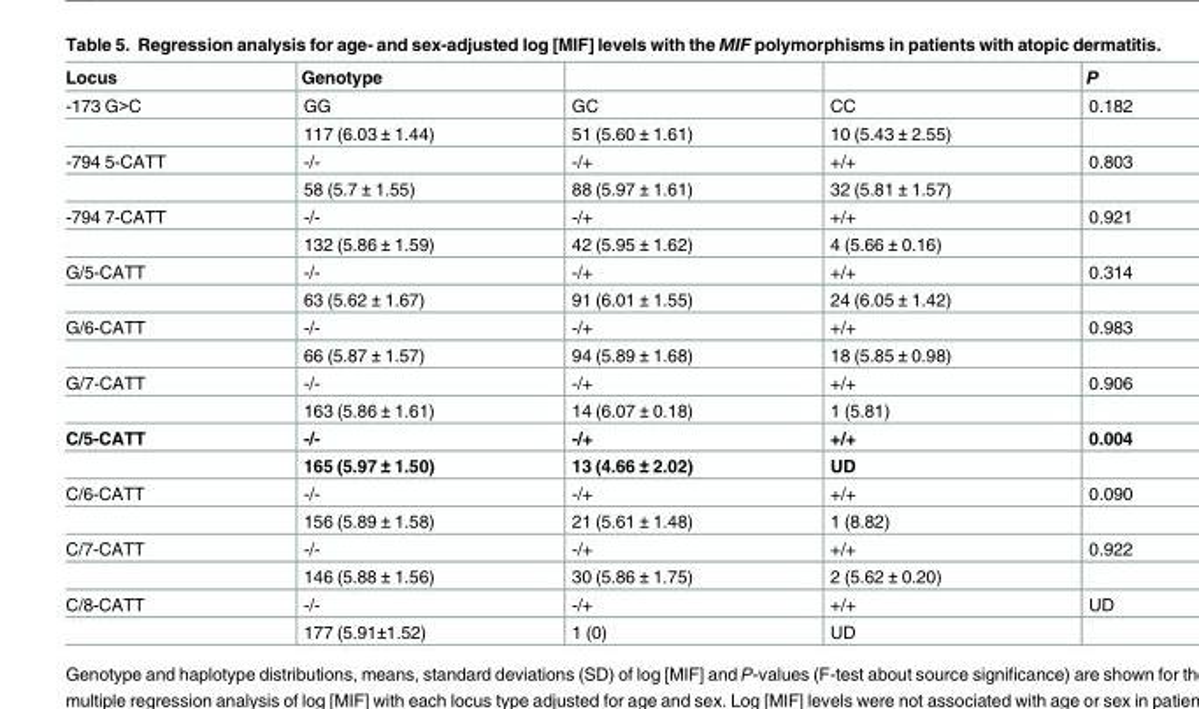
<table><thead><tr><td>Locus</td><td>Genotype</td><td></td><td></td><td>P</td></tr></thead><tbody><tr><td rowspan="2">-173 G&gt;C</td><td>GG</td><td>GC</td><td>CC</td><td>0.182</td></tr><tr><td>117 (6.03 ± 1.44)</td><td>51 (5.60 ± 1.61)</td><td>10 (5.43 ± 2.55)</td><td></td></tr><tr><td rowspan="2">-794 5-CATT</td><td>-/-</td><td>-/+</td><td>+/+</td><td>0.803</td></tr><tr><td>58 (5.7 ± 1.55)</td><td>88 (5.97 ± 1.61)</td><td>32 (5.81 ± 1.57)</td><td></td></tr><tr><td rowspan="2">-794 7-CATT</td><td>-/-</td><td>-/+</td><td>+/+</td><td>0.921</td></tr><tr><td>132 (5.86 ± 1.59)</td><td>42 (5.95 ± 1.62)</td><td>4 (5.66 ± 0.16)</td><td></td></tr><tr><td rowspan="2">G/5-CATT</td><td>-/-</td><td>-/+</td><td>+/+</td><td>0.314</td></tr><tr><td>63 (5.62 ± 1.67)</td><td>91 (6.01 ± 1.55)</td><td>24 (6.05 ± 1.42)</td><td></td></tr><tr><td rowspan="2">G/6-CATT</td><td>-/-</td><td>-/+</td><td>+/+</td><td>0.983</td></tr><tr><td>66 (5.87 ± 1.57)</td><td>94 (5.89 ± 1.68)</td><td>18 (5.85 ± 0.98)</td><td></td></tr><tr><td rowspan="2">G/7-CATT</td><td>-/-</td><td>-/+</td><td>+/+</td><td>0.906</td></tr><tr><td>163 (5.86 ± 1.61)</td><td>14 (6.07 ± 0.18)</td><td>1 (5.81)</td><td></td></tr><tr><td rowspan="2">C/5-CATT</td><td>-/-</td><td>-/+</td><td>+/+</td><td>0.004</td></tr><tr><td>165 (5.97 ± 1.50)</td><td>13 (4.66 ± 2.02)</td><td>UD</td><td></td></tr><tr><td rowspan="2">C/6-CATT</td><td>-/-</td><td>-/+</td><td>+/+</td><td>0.090</td></tr><tr><td>156 (5.89 ± 1.58)</td><td>21 (5.61 ± 1.48)</td><td>1 (8.82)</td><td></td></tr><tr><td rowspan="2">C/7-CATT</td><td>-/-</td><td>-/+</td><td>+/+</td><td>0.922</td></tr><tr><td>146 (5.88 ± 1.56)</td><td>30 (5.86 ± 1.75)</td><td>2 (5.62 ± 0.20)</td><td></td></tr><tr><td rowspan="2">C/8-CATT</td><td>-/-</td><td>-/+</td><td>+/+</td><td>UD</td></tr><tr><td>177 (5.91±1.52)</td><td>1 (0)</td><td>UD</td><td></td></tr></tbody></table>